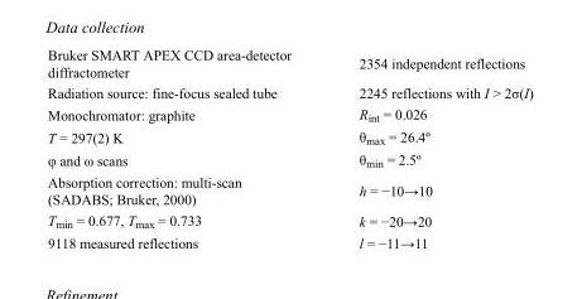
<table><tbody><tr><td>Bruker SMART APEX CCD area-detector diffractometer</td><td>2354 independent reflections</td></tr><tr><td>Radiation source: fine-focus sealed tube</td><td>2245 reflections with I &gt; 2σ(I)</td></tr><tr><td>Monochromator: graphite</td><td>R<sub>int</sub> = 0.026</td></tr><tr><td>T = 297(2) K</td><td>θ<sub>max</sub> = 26.4º</td></tr><tr><td>φ and ω scans</td><td>θ<sub>min</sub> = 2.5º</td></tr><tr><td>Absorption correction: multi-scan (SADABS; Bruker, 2000)</td><td>h = −10→10</td></tr><tr><td>T<sub>min</sub> = 0.677, T<sub>max</sub> = 0.733</td><td>k = −20→20</td></tr><tr><td>9118 measured reflections</td><td>l = −11→11</td></tr></tbody></table>